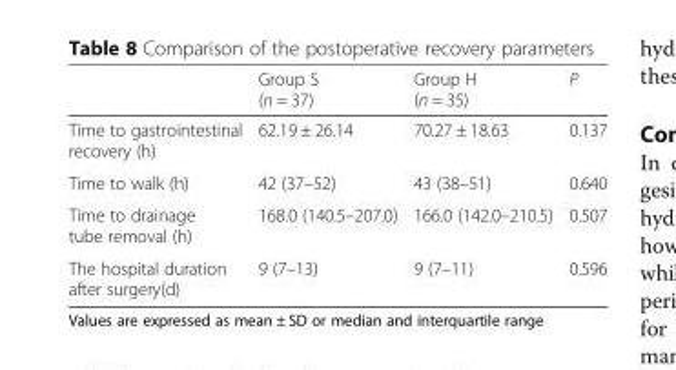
<table><thead><tr><td></td><td>Group S (n = 37)</td><td>Group H (n = 35)</td><td>P</td></tr></thead><tbody><tr><td>Time to gastrointestinal recovery (h)</td><td>62.19 ± 26.14</td><td>70.27 ± 18.63</td><td>0.137</td></tr><tr><td>Time to walk (h)</td><td>42 (37–52)</td><td>43 (38–51)</td><td>0.640</td></tr><tr><td>Time to drainage tube removal (h)</td><td>168.0 (140.5–207.0)</td><td>166.0 (142.0–210.5)</td><td>0.507</td></tr><tr><td>The hospital duration after surgery(d)</td><td>9 (7–13)</td><td>9 (7–11)</td><td>0.596</td></tr></tbody></table>